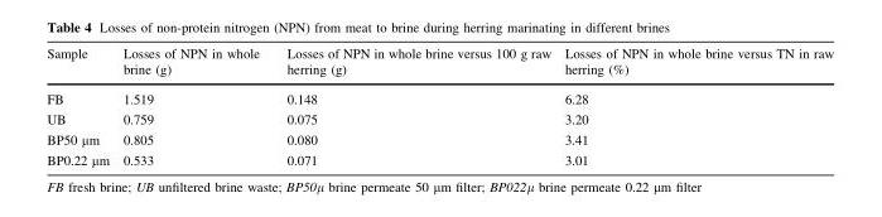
<table><thead><tr><td>Sample</td><td>Losses of NPN in whole brine (g)</td><td>Losses of NPN in whole brine versus 100 g raw herring (g)</td><td>Losses of NPN in whole brine versus TN in raw herring (%)</td></tr></thead><tbody><tr><td>FB</td><td>1.519</td><td>0.148</td><td>6.28</td></tr><tr><td>UB</td><td>0.759</td><td>0.075</td><td>3.20</td></tr><tr><td>BP50 µm</td><td>0.805</td><td>0.080</td><td>3.41</td></tr><tr><td>BP0.22 µm</td><td>0.533</td><td>0.071</td><td>3.01</td></tr></tbody></table>